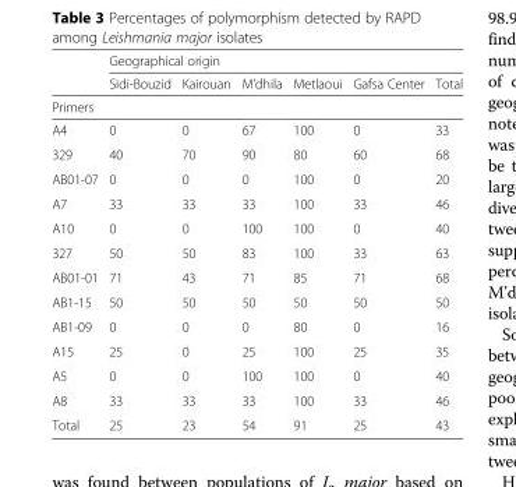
<table><thead><tr><td rowspan="2"></td><td colspan="6">Geographical origin</td></tr><tr><td>Sidi-Bouzid</td><td>Kairouan</td><td>M’dhila</td><td>Metlaoui</td><td>Gafsa Center</td><td>Total</td></tr></thead><tbody><tr><td colspan="7">Primers</td></tr><tr><td>A4</td><td>0</td><td>0</td><td>67</td><td>100</td><td>0</td><td>33</td></tr><tr><td>329</td><td>40</td><td>70</td><td>90</td><td>80</td><td>60</td><td>68</td></tr><tr><td>AB01-07</td><td>0</td><td>0</td><td>0</td><td>100</td><td>0</td><td>20</td></tr><tr><td>A7</td><td>33</td><td>33</td><td>33</td><td>100</td><td>33</td><td>46</td></tr><tr><td>A10</td><td>0</td><td>0</td><td>100</td><td>100</td><td>0</td><td>40</td></tr><tr><td>327</td><td>50</td><td>50</td><td>83</td><td>100</td><td>33</td><td>63</td></tr><tr><td>AB01-01</td><td>71</td><td>43</td><td>71</td><td>85</td><td>71</td><td>68</td></tr><tr><td>AB1-15</td><td>50</td><td>50</td><td>50</td><td>50</td><td>50</td><td>50</td></tr><tr><td>AB1-09</td><td>0</td><td>0</td><td>0</td><td>80</td><td>0</td><td>16</td></tr><tr><td>A15</td><td>25</td><td>0</td><td>25</td><td>100</td><td>25</td><td>35</td></tr><tr><td>A5</td><td>0</td><td>0</td><td>100</td><td>100</td><td>0</td><td>40</td></tr><tr><td>A8</td><td>33</td><td>33</td><td>33</td><td>100</td><td>33</td><td>46</td></tr><tr><td>Total</td><td>25</td><td>23</td><td>54</td><td>91</td><td>25</td><td>43</td></tr></tbody></table>